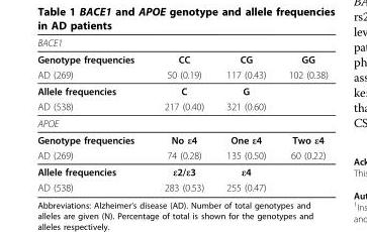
<table><thead><tr><td>BACE1</td><td></td><td></td><td></td></tr></thead><tbody><tr><td>Genotype frequencies</td><td>CC</td><td>CG</td><td>GG</td></tr><tr><td>AD (269)</td><td>50 (0.19)</td><td>117 (0.43)</td><td>102 (0.38)</td></tr><tr><td>Allele frequencies</td><td>C</td><td>G</td><td></td></tr><tr><td>AD (538)</td><td>217 (0.40)</td><td>321 (0.60)</td><td></td></tr><tr><td colspan="4">APOE</td></tr><tr><td>Genotype frequencies</td><td>No ε4</td><td>One ε4</td><td>Two ε4</td></tr><tr><td>AD (269)</td><td>74 (0.28)</td><td>135 (0.50)</td><td>60 (0.22)</td></tr><tr><td>Allele frequencies</td><td>ε2/ε3</td><td>ε4</td><td></td></tr><tr><td>AD (538)</td><td>283 (0.53)</td><td>255 (0.47)</td><td></td></tr></tbody></table>